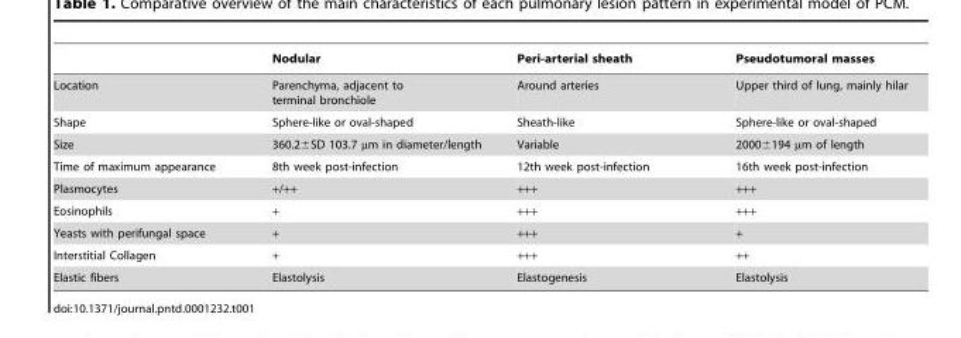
<table><thead><tr><td></td><td>Nodular</td><td>Peri-arterial sheath</td><td>Pseudotumoral masses</td></tr></thead><tbody><tr><td>Location</td><td>Parenchyma, adjacent to terminal bronchiole</td><td>Around arteries</td><td>Upper third of lung, mainly hilar</td></tr><tr><td>Shape</td><td>Sphere-like or oval-shaped</td><td>Sheath-like</td><td>Sphere-like or oval-shaped</td></tr><tr><td>Size</td><td>360.2±SD 103.7 µm in diameter/length</td><td>Variable</td><td>2000±194 µm of length</td></tr><tr><td>Time of maximum appearance</td><td>8th week post-infection</td><td>12th week post-infection</td><td>16th week post-infection</td></tr><tr><td>Plasmocytes</td><td>+/++</td><td>+++</td><td>+++</td></tr><tr><td>Eosinophils</td><td>+</td><td>+++</td><td>+++</td></tr><tr><td>Yeasts with perifungal space</td><td>+</td><td>+++</td><td>+</td></tr><tr><td>Interstitial Collagen</td><td>+</td><td>+++</td><td>++</td></tr><tr><td>Elastic fibers</td><td>Elastolysis</td><td>Elastogenesis</td><td>Elastolysis</td></tr></tbody></table>